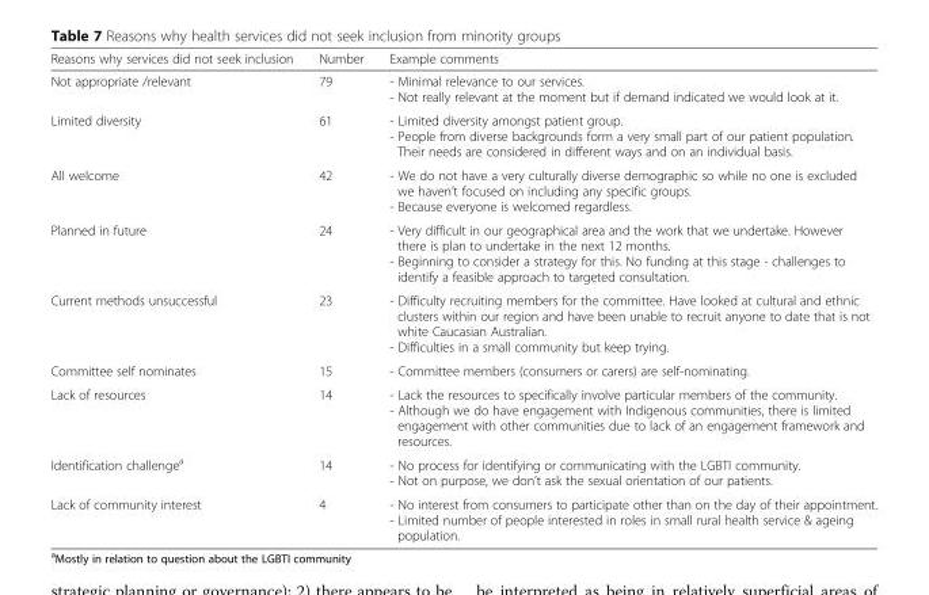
<table><thead><tr><td>Reasons why services did not seek inclusion</td><td>Number</td><td>Example comments</td></tr></thead><tbody><tr><td>Not appropriate /relevant</td><td>79</td><td>- Minimal relevance to our services. - Not really relevant at the moment but if demand indicated we would look at it.</td></tr><tr><td>Limited diversity</td><td>61</td><td>- Limited diversity amongst patient group. - People from diverse backgrounds form a very small part of our patient population. Their needs are considered in different ways and on an individual basis.</td></tr><tr><td>All welcome</td><td>42</td><td>- We do not have a very culturally diverse demographic so while no one is excluded we haven’t focused on including any specific groups. - Because everyone is welcomed regardless.</td></tr><tr><td>Planned in future</td><td>24</td><td>- Very difficult in our geographical area and the work that we undertake. However there is plan to undertake in the next 12 months. - Beginning to consider a strategy for this. No funding at this stage - challenges to identify a feasible approach to targeted consultation.</td></tr><tr><td>Current methods unsuccessful</td><td>23</td><td>- Difficulty recruiting members for the committee. Have looked at cultural and ethnic clusters within our region and have been unable to recruit anyone to date that is not white Caucasian Australian. - Difficulties in a small community but keep trying.</td></tr><tr><td>Committee self nominates</td><td>15</td><td>- Committee members (consumers or carers) are self-nominating.</td></tr><tr><td>Lack of resources</td><td>14</td><td>- Lack the resources to specifically involve particular members of the community. - Although we do have engagement with Indigenous communities, there is limited engagement with other communities due to lack of an engagement framework and resources.</td></tr><tr><td>Identification challenge<sup>a</sup></td><td>14</td><td>- No process for identifying or communicating with the LGBTI community. - Not on purpose, we don’t ask the sexual orientation of our patients.</td></tr><tr><td>Lack of community interest</td><td>4</td><td>- No interest from consumers to participate other than on the day of their appointment. - Limited number of people interested in roles in small rural health service &amp; ageing population.</td></tr></tbody></table>